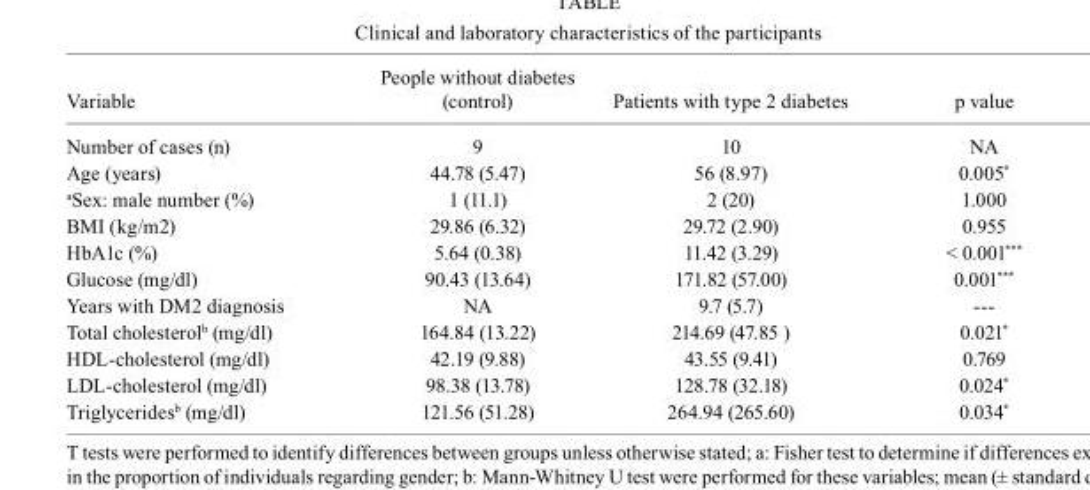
<table><thead><tr><td>Variable</td><td>People without diabetes (control)</td><td>Patients with type 2 diabetes</td><td>p value</td></tr></thead><tbody><tr><td>Number of cases (n)</td><td>9</td><td>10</td><td>NA</td></tr><tr><td>Age (years)</td><td>44.78 (5.47)</td><td>56 (8.97)</td><td>0.005*</td></tr><tr><td><sup>a</sup>Sex: male number (%)</td><td>1 (11.1)</td><td>2 (20)</td><td>1.000</td></tr><tr><td>BMI (kg/m2)</td><td>29.86 (6.32)</td><td>29.72 (2.90)</td><td>0.955</td></tr><tr><td>HbA1c (%)</td><td>5.64 (0.38)</td><td>11.42 (3.29)</td><td>&lt; 0.001***</td></tr><tr><td>Glucose (mg/dl)</td><td>90.43 (13.64)</td><td>171.82 (57.00)</td><td>0.001***</td></tr><tr><td>Years with DM2 diagnosis</td><td>NA</td><td>9.7 (5.7)</td><td>---</td></tr><tr><td>Total cholesterol<sup>b</sup> (mg/dl)</td><td>164.84 (13.22)</td><td>214.69 (47.85 )</td><td>0.021*</td></tr><tr><td>HDL-cholesterol (mg/dl)</td><td>42.19 (9.88)</td><td>43.55 (9.41)</td><td>0.769</td></tr><tr><td>LDL-cholesterol (mg/dl)</td><td>98.38 (13.78)</td><td>128.78 (32.18)</td><td>0.024*</td></tr><tr><td>Triglycerides<sup>b</sup> (mg/dl)</td><td>121.56 (51.28)</td><td>264.94 (265.60)</td><td>0.034*</td></tr></tbody></table>